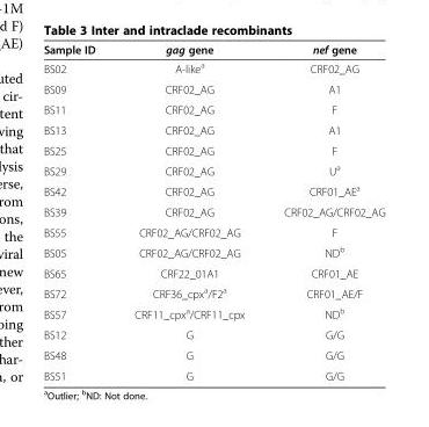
<table><thead><tr><td>Sample ID</td><td>gag gene</td><td>nef gene</td></tr></thead><tbody><tr><td>BS02</td><td>A-like<sup>a</sup></td><td>CRF02_AG</td></tr><tr><td>BS09</td><td>CRF02_AG</td><td>A1</td></tr><tr><td>BS11</td><td>CRF02_AG</td><td>F</td></tr><tr><td>BS13</td><td>CRF02_AG</td><td>A1</td></tr><tr><td>BS25</td><td>CRF02_AG</td><td>F</td></tr><tr><td>BS29</td><td>CRF02_AG</td><td>U<sup>a</sup></td></tr><tr><td>BS42</td><td>CRF02_AG</td><td>CRF01_AE<sup>a</sup></td></tr><tr><td>BS39</td><td>CRF02_AG</td><td>CRF02_AG/CRF02_AG</td></tr><tr><td>BS55</td><td>CRF02_AG/CRF02_AG</td><td>F</td></tr><tr><td>BS05</td><td>CRF02_AG/CRF02_AG</td><td>ND<sup>b</sup></td></tr><tr><td>BS65</td><td>CRF22_01A1</td><td>CRF01_AE</td></tr><tr><td>BS72</td><td>CRF36_cpx<sup>a</sup>/F2<sup>a</sup></td><td>CRF01_AE/F</td></tr><tr><td>BS57</td><td>CRF11_cpx<sup>a</sup>/CRF11_cpx</td><td>ND<sup>b</sup></td></tr><tr><td>BS12</td><td>G</td><td>G/G</td></tr><tr><td>BS48</td><td>G</td><td>G/G</td></tr><tr><td>BS51</td><td>G</td><td>G/G</td></tr></tbody></table>